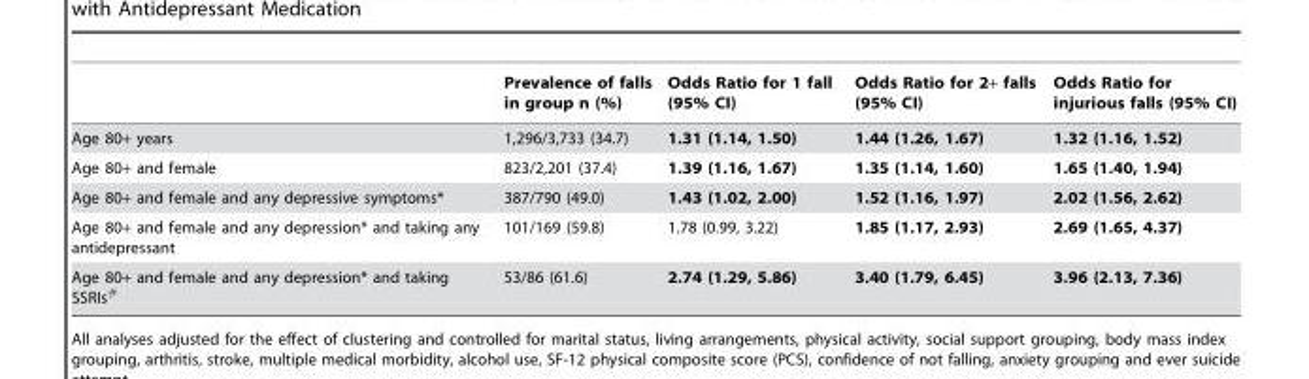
<table><thead><tr><td></td><td>Prevalence of falls in group n (%)</td><td>Odds Ratio for 1 fall (95% CI)</td><td>Odds Ratio for 2+ falls (95% CI)</td><td>Odds Ratio for injurious falls (95% CI)</td></tr></thead><tbody><tr><td>Age 80+ years</td><td>1,296/3,733 (34.7)</td><td>1.31 (1.14, 1.50)</td><td>1.44 (1.26, 1.67)</td><td>1.32 (1.16, 1.52)</td></tr><tr><td>Age 80+ and female</td><td>823/2,201 (37.4)</td><td>1.39 (1.16, 1.67)</td><td>1.35 (1.14, 1.60)</td><td>1.65 (1.40, 1.94)</td></tr><tr><td>Age 80+ and female and any depressive symptoms*</td><td>387/790 (49.0)</td><td>1.43 (1.02, 2.00)</td><td>1.52 (1.16, 1.97)</td><td>2.02 (1.56, 2.62)</td></tr><tr><td>Age 80+ and female and any depression* and taking any antidepressant</td><td>101/169 (59.8)</td><td>1.78 (0.99, 3.22)</td><td>1.85 (1.17, 2.93)</td><td>2.69 (1.65, 4.37)</td></tr><tr><td>Age 80+ and female and any depression* and taking SSRIs#</td><td>53/86 (61.6)</td><td>2.74 (1.29, 5.86)</td><td>3.40 (1.79, 6.45)</td><td>3.96 (2.13, 7.36)</td></tr></tbody></table>